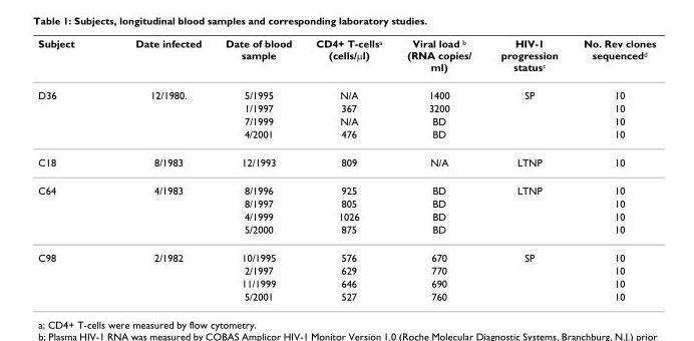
<table><thead><tr><td>Subject</td><td>Date infected</td><td>Date of blood sample</td><td>CD4+ T-cells<sup>a</sup> (cells/μl)</td><td>Viral load <sup>b</sup> (RNA copies/ ml)</td><td>HIV-1 progression status<sup>c</sup></td><td>No. Rev clones sequenced<sup>d</sup></td></tr></thead><tbody><tr><td rowspan="4">D36</td><td>12/1980.</td><td>5/1995</td><td>N/A</td><td>1400</td><td>SP</td><td>10</td></tr><tr><td></td><td>1/1997</td><td>367</td><td>3200</td><td></td><td>10</td></tr><tr><td></td><td>7/1999</td><td>N/A</td><td>BD</td><td></td><td>10</td></tr><tr><td></td><td>4/2001</td><td>476</td><td>BD</td><td></td><td>10</td></tr><tr><td>C18</td><td>8/1983</td><td>12/1993</td><td>809</td><td>N/A</td><td>LTNP</td><td>10</td></tr><tr><td rowspan="4">C64</td><td>4/1983</td><td>8/1996</td><td>925</td><td>BD</td><td>LTNP</td><td>10</td></tr><tr><td></td><td>8/1997</td><td>805</td><td>BD</td><td></td><td>10</td></tr><tr><td></td><td>4/1999</td><td>1026</td><td>BD</td><td></td><td>10</td></tr><tr><td></td><td>5/2000</td><td>875</td><td>BD</td><td></td><td>10</td></tr><tr><td rowspan="4">C98</td><td>2/1982</td><td>10/1995</td><td>576</td><td>670</td><td>SP</td><td>10</td></tr><tr><td></td><td>2/1997</td><td>629</td><td>770</td><td></td><td>10</td></tr><tr><td></td><td>11/1999</td><td>646</td><td>690</td><td></td><td>10</td></tr><tr><td></td><td>5/2001</td><td>527</td><td>760</td><td></td><td>10</td></tr></tbody></table>